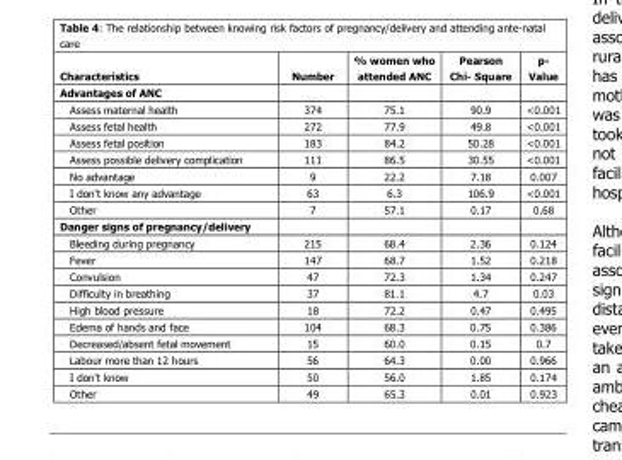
<table><thead><tr><td>Characteristics</td><td>Number</td><td>% women who attended ANC</td><td>Pearson Chi- Square</td><td>p- Value</td></tr></thead><tbody><tr><td colspan="5">Advantages of ANC</td></tr><tr><td>Assess maternal health</td><td>374</td><td>75.1</td><td>90.9</td><td>&lt;0.001</td></tr><tr><td>Assess fetal health</td><td>272</td><td>77.9</td><td>49.8</td><td>&lt;0.001</td></tr><tr><td>Assess fetal position</td><td>183</td><td>84.2</td><td>50.28</td><td>&lt;0.001</td></tr><tr><td>Assess possible delivery complication</td><td>111</td><td>86.5</td><td>30.55</td><td>&lt;0.001</td></tr><tr><td>No advantage</td><td>9</td><td>22.2</td><td>7.18</td><td>0.007</td></tr><tr><td>I don&#x27;t know any advantage</td><td>63</td><td>6.3</td><td>106.9</td><td>&lt;0.001</td></tr><tr><td>Other</td><td>7</td><td>57.1</td><td>0.17</td><td>0.68</td></tr><tr><td colspan="5">Danger signs of pregnancy/delivery</td></tr><tr><td>Bleeding during pregnancy</td><td>215</td><td>68.4</td><td>2.36</td><td>0.124</td></tr><tr><td>Fever</td><td>147</td><td>68.7</td><td>1.52</td><td>0.218</td></tr><tr><td>Convulsion</td><td>47</td><td>72.3</td><td>1.34</td><td>0.247</td></tr><tr><td>Difficulty in breathing</td><td>37</td><td>81.1</td><td>4.7</td><td>0.03</td></tr><tr><td>High blood pressure</td><td>18</td><td>72.2</td><td>0.47</td><td>0.495</td></tr><tr><td>Edema of hands and face</td><td>104</td><td>68.3</td><td>0.75</td><td>0.386</td></tr><tr><td>Decreased/absent fetal movement</td><td>15</td><td>60.0</td><td>0.15</td><td>0.7</td></tr><tr><td>Labour more than 12 hours</td><td>56</td><td>64.3</td><td>0.00</td><td>0.966</td></tr><tr><td>I don&#x27;t know</td><td>50</td><td>56.0</td><td>1.85</td><td>0.174</td></tr><tr><td>Other</td><td>49</td><td>65.3</td><td>0.01</td><td>0.923</td></tr></tbody></table>